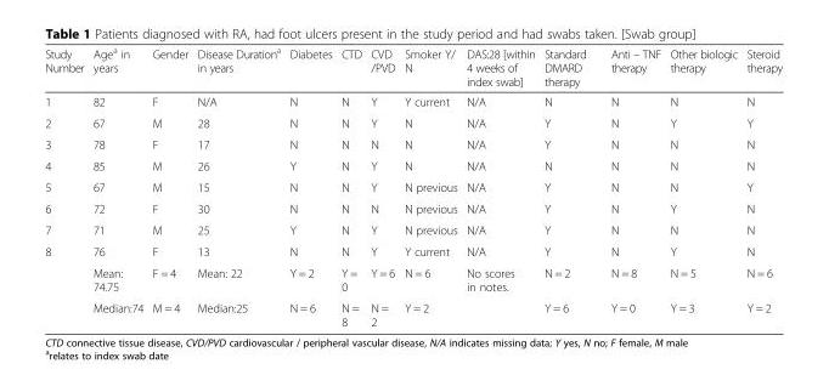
<table><thead><tr><td>Study Number</td><td>Age<sup>a</sup> in years</td><td>Gender</td><td>Disease Duration<sup>a</sup> in years</td><td>Diabetes</td><td>CTD</td><td>CVD /PVD</td><td>Smoker Y/ N</td><td>DAS:28 [within 4 weeks of index swab]</td><td>Standard DMARD therapy</td><td>Anti – TNF therapy</td><td>Other biologic therapy</td><td>Steroid therapy</td></tr></thead><tbody><tr><td>1</td><td>82</td><td>F</td><td>N/A</td><td>N</td><td>N</td><td>Y</td><td>Y current</td><td>N/A</td><td>N</td><td>N</td><td>N</td><td>N</td></tr><tr><td>2</td><td>67</td><td>M</td><td>28</td><td>N</td><td>N</td><td>Y</td><td>N</td><td>N/A</td><td>Y</td><td>N</td><td>Y</td><td>Y</td></tr><tr><td>3</td><td>78</td><td>F</td><td>17</td><td>N</td><td>N</td><td>N</td><td>N</td><td>N/A</td><td>Y</td><td>N</td><td>N</td><td>N</td></tr><tr><td>4</td><td>85</td><td>M</td><td>26</td><td>Y</td><td>N</td><td>Y</td><td>N</td><td>N/A</td><td>N</td><td>N</td><td>N</td><td>N</td></tr><tr><td>5</td><td>67</td><td>M</td><td>15</td><td>N</td><td>N</td><td>Y</td><td>N previous</td><td>N/A</td><td>Y</td><td>N</td><td>N</td><td>Y</td></tr><tr><td>6</td><td>72</td><td>F</td><td>30</td><td>N</td><td>N</td><td>N</td><td>N previous</td><td>N/A</td><td>Y</td><td>N</td><td>Y</td><td>N</td></tr><tr><td>7</td><td>71</td><td>M</td><td>25</td><td>Y</td><td>N</td><td>Y</td><td>N previous</td><td>N/A</td><td>Y</td><td>N</td><td>N</td><td>N</td></tr><tr><td rowspan="3">8</td><td>76</td><td>F</td><td>13</td><td>N</td><td>N</td><td>Y</td><td>Y current</td><td>N/A</td><td>Y</td><td>N</td><td>Y</td><td>N</td></tr><tr><td>Mean: 74.75</td><td>F = 4</td><td>Mean: 22</td><td>Y = 2</td><td>Y = 0</td><td>Y = 6</td><td>N = 6</td><td rowspan="2">No scores in notes.</td><td>N = 2</td><td>N = 8</td><td>N = 5</td><td>N = 6</td></tr><tr><td>Median:74</td><td>M = 4</td><td>Median:25</td><td>N = 6</td><td>N = 8</td><td>N = 2</td><td>Y = 2</td><td>Y = 6</td><td>Y = 0</td><td>Y = 3</td><td>Y = 2</td></tr></tbody></table>